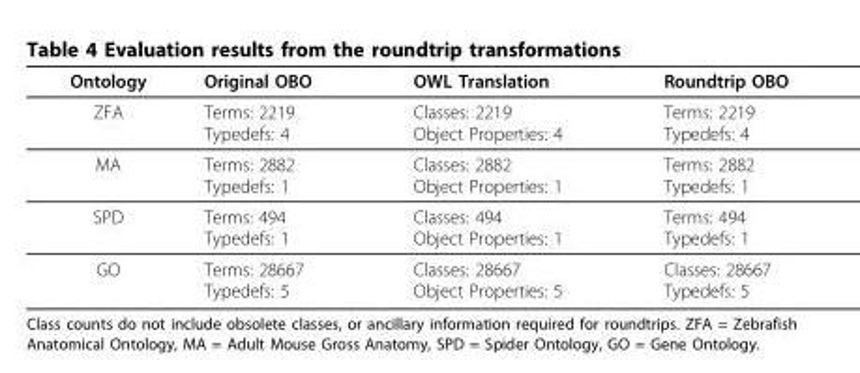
<table><thead><tr><td>Ontology</td><td>Original OBO</td><td>OWL Translation</td><td>Roundtrip OBO</td></tr></thead><tbody><tr><td>ZFA</td><td>Terms: 2219 Typedefs: 4</td><td>Classes: 2219 Object Properties: 4</td><td>Terms: 2219 Typedefs: 4</td></tr><tr><td>MA</td><td>Terms: 2882 Typedefs: 1</td><td>Classes: 2882 Object Properties: 1</td><td>Terms: 2882 Typedefs: 1</td></tr><tr><td>SPD</td><td>Terms: 494 Typedefs: 1</td><td>Classes: 494 Object Properties: 1</td><td>Terms: 494 Typedefs: 1</td></tr><tr><td>GO</td><td>Terms: 28667 Typedefs: 5</td><td>Classes: 28667 Object Properties: 5</td><td>Classes: 28667 Typedefs: 5</td></tr></tbody></table>